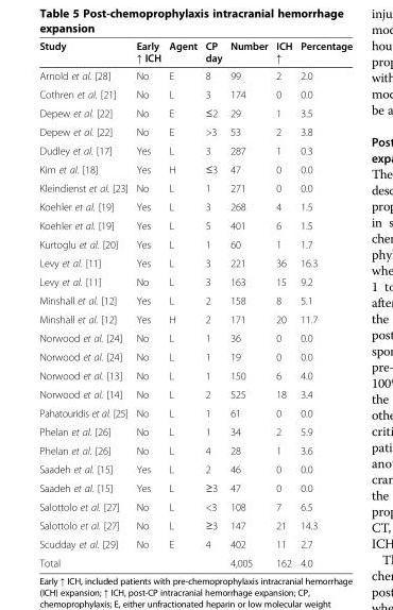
<table><thead><tr><td>Study</td><td>Early ↑ ICH</td><td>Agent</td><td>CP day</td><td>Number</td><td>ICH ↑</td><td>Percentage</td></tr></thead><tbody><tr><td>Arnold et al. [28]</td><td>No</td><td>E</td><td>8</td><td>99</td><td>2</td><td>2.0</td></tr><tr><td>Cothren et al. [21]</td><td>No</td><td>L</td><td>3</td><td>174</td><td>0</td><td>0.0</td></tr><tr><td>Depew et al. [22]</td><td>No</td><td>E</td><td>≤2</td><td>29</td><td>1</td><td>3.5</td></tr><tr><td>Depew et al. [22]</td><td>No</td><td>E</td><td>&gt;3</td><td>53</td><td>2</td><td>3.8</td></tr><tr><td>Dudley et al. [17]</td><td>Yes</td><td>L</td><td>3</td><td>287</td><td>1</td><td>0.3</td></tr><tr><td>Kim et al. [18]</td><td>Yes</td><td>H</td><td>≤3</td><td>47</td><td>0</td><td>0.0</td></tr><tr><td>Kleindienst et al. [23]</td><td>No</td><td>L</td><td>1</td><td>271</td><td>0</td><td>0.0</td></tr><tr><td>Koehler et al. [19]</td><td>Yes</td><td>L</td><td>3</td><td>268</td><td>4</td><td>1.5</td></tr><tr><td>Koehler et al. [19]</td><td>Yes</td><td>L</td><td>5</td><td>401</td><td>6</td><td>1.5</td></tr><tr><td>Kurtoglu et al. [20]</td><td>Yes</td><td>L</td><td>1</td><td>60</td><td>1</td><td>1.7</td></tr><tr><td>Levy et al. [11]</td><td>Yes</td><td>L</td><td>3</td><td>221</td><td>36</td><td>16.3</td></tr><tr><td>Levy et al. [11]</td><td>No</td><td>L</td><td>3</td><td>163</td><td>15</td><td>9.2</td></tr><tr><td>Minshall et al. [12]</td><td>Yes</td><td>L</td><td>2</td><td>158</td><td>8</td><td>5.1</td></tr><tr><td>Minshall et al. [12]</td><td>Yes</td><td>H</td><td>2</td><td>171</td><td>20</td><td>11.7</td></tr><tr><td>Norwood et al. [24]</td><td>No</td><td>L</td><td>1</td><td>36</td><td>0</td><td>0.0</td></tr><tr><td>Norwood et al. [24]</td><td>No</td><td>L</td><td>1</td><td>19</td><td>0</td><td>0.0</td></tr><tr><td>Norwood et al. [13]</td><td>No</td><td>L</td><td>1</td><td>150</td><td>6</td><td>4.0</td></tr><tr><td>Norwood et al. [14]</td><td>No</td><td>L</td><td>2</td><td>525</td><td>18</td><td>3.4</td></tr><tr><td>Pahatouridis et al. [25]</td><td>No</td><td>L</td><td>1</td><td>61</td><td>0</td><td>0.0</td></tr><tr><td>Phelan et al. [26]</td><td>No</td><td>L</td><td>1</td><td>34</td><td>2</td><td>5.9</td></tr><tr><td>Phelan et al. [26]</td><td>No</td><td>L</td><td>4</td><td>28</td><td>1</td><td>3.6</td></tr><tr><td>Saadeh et al. [15]</td><td>Yes</td><td>L</td><td>2</td><td>46</td><td>0</td><td>0.0</td></tr><tr><td>Saadeh et al. [15]</td><td>Yes</td><td>L</td><td>≥3</td><td>47</td><td>0</td><td>0.0</td></tr><tr><td>Salottolo et al. [27]</td><td>No</td><td>L</td><td>&lt;3</td><td>108</td><td>7</td><td>6.5</td></tr><tr><td>Salottolo et al. [27]</td><td>No</td><td>L</td><td>≥3</td><td>147</td><td>21</td><td>14.3</td></tr><tr><td>Scudday et al. [29]</td><td>No</td><td>E</td><td>4</td><td>402</td><td>11</td><td>2.7</td></tr><tr><td>Total</td><td></td><td></td><td></td><td>4,005</td><td>162</td><td>4.0</td></tr></tbody></table>